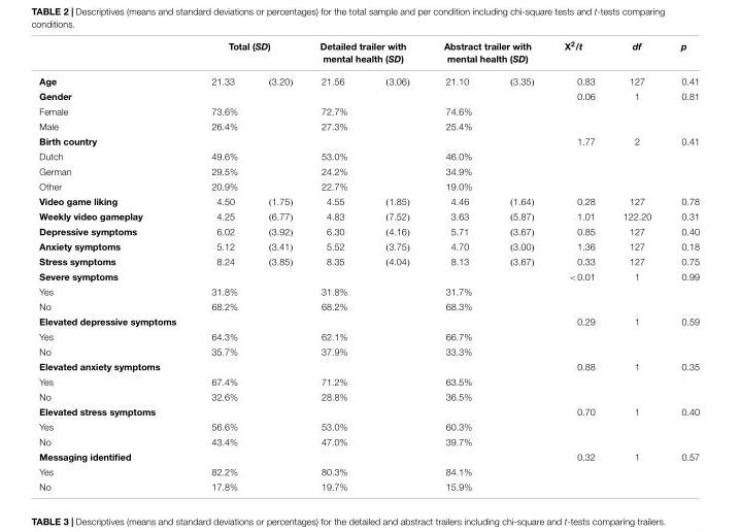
<table><thead><tr><td rowspan="2">Age</td><td colspan="2">Total (SD)</td><td colspan="2">Detailed trailer with mental health (SD)</td><td colspan="2">Abstract trailer with mental health (SD)</td><td rowspan="2">X<sup>2</sup>/t 0.83</td><td rowspan="2">df 127</td><td rowspan="2">p 0.41</td></tr><tr><td>21.33</td><td>(3.20)</td><td>21.56</td><td>(3.06)</td><td>21.10</td><td>(3.35)</td></tr></thead><tbody><tr><td>Gender</td><td></td><td></td><td></td><td></td><td></td><td></td><td>0.06</td><td>1</td><td>0.81</td></tr><tr><td>Female</td><td>73.6%</td><td></td><td>72.7%</td><td></td><td>74.6%</td><td></td><td></td><td></td><td></td></tr><tr><td>Male</td><td>26.4%</td><td></td><td>27.3%</td><td></td><td>25.4%</td><td></td><td></td><td></td><td></td></tr><tr><td>Birth country</td><td></td><td></td><td></td><td></td><td></td><td></td><td>1.77</td><td>2</td><td>0.41</td></tr><tr><td>Dutch</td><td>49.6%</td><td></td><td>53.0%</td><td></td><td>46.0%</td><td></td><td></td><td></td><td></td></tr><tr><td>German</td><td>29.5%</td><td></td><td>24.2%</td><td></td><td>34.9%</td><td></td><td></td><td></td><td></td></tr><tr><td>Other</td><td>20.9%</td><td></td><td>22.7%</td><td></td><td>19.0%</td><td></td><td></td><td></td><td></td></tr><tr><td>Video game liking</td><td>4.50</td><td>(1.75)</td><td>4.55</td><td>(1.85)</td><td>4.46</td><td>(1.64)</td><td>0.28</td><td>127</td><td>0.78</td></tr><tr><td>Weekly video gameplay</td><td>4.25</td><td>(6.77)</td><td>4.83</td><td>(7.52)</td><td>3.63</td><td>(5.87)</td><td>1.01</td><td>122.20</td><td>0.31</td></tr><tr><td>Depressive symptoms</td><td>6.02</td><td>(3.92)</td><td>6.30</td><td>(4.16)</td><td>5.71</td><td>(3.67)</td><td>0.85</td><td>127</td><td>0.40</td></tr><tr><td>Anxiety symptoms</td><td>5.12</td><td>(3.41)</td><td>5.52</td><td>(3.75)</td><td>4.70</td><td>(3.00)</td><td>1.36</td><td>127</td><td>0.18</td></tr><tr><td>Stress symptoms</td><td>8.24</td><td>(3.85)</td><td>8.35</td><td>(4.04)</td><td>8.13</td><td>(3.67)</td><td>0.33</td><td>127</td><td>0.75</td></tr><tr><td>Severe symptoms</td><td></td><td></td><td></td><td></td><td></td><td></td><td>&lt;0.01</td><td>1</td><td>0.99</td></tr><tr><td>Yes</td><td>31.8%</td><td></td><td>31.8%</td><td></td><td>31.7%</td><td></td><td></td><td></td><td></td></tr><tr><td>No</td><td>68.2%</td><td></td><td>68.2%</td><td></td><td>68.3%</td><td></td><td></td><td></td><td></td></tr><tr><td>Elevated depressive symptoms</td><td></td><td></td><td></td><td></td><td></td><td></td><td>0.29</td><td>1</td><td>0.59</td></tr><tr><td>Yes</td><td>64.3%</td><td></td><td>62.1%</td><td></td><td>66.7%</td><td></td><td></td><td></td><td></td></tr><tr><td>No</td><td>35.7%</td><td></td><td>37.9%</td><td></td><td>33.3%</td><td></td><td></td><td></td><td></td></tr><tr><td>Elevated anxiety symptoms</td><td></td><td></td><td></td><td></td><td></td><td></td><td>0.88</td><td>1</td><td>0.35</td></tr><tr><td>Yes</td><td>67.4%</td><td></td><td>71.2%</td><td></td><td>63.5%</td><td></td><td></td><td></td><td></td></tr><tr><td>No</td><td>32.6%</td><td></td><td>28.8%</td><td></td><td>36.5%</td><td></td><td></td><td></td><td></td></tr><tr><td>Elevated stress symptoms</td><td></td><td></td><td></td><td></td><td></td><td></td><td>0.70</td><td>1</td><td>0.40</td></tr><tr><td>Yes</td><td>56.6%</td><td></td><td>53.0%</td><td></td><td>60.3%</td><td></td><td></td><td></td><td></td></tr><tr><td>No</td><td>43.4%</td><td></td><td>47.0%</td><td></td><td>39.7%</td><td></td><td></td><td></td><td></td></tr><tr><td>Messaging identified</td><td></td><td></td><td></td><td></td><td></td><td></td><td>0.32</td><td>1</td><td>0.57</td></tr><tr><td>Yes</td><td>82.2%</td><td></td><td>80.3%</td><td></td><td>84.1%</td><td></td><td></td><td></td><td></td></tr><tr><td>No</td><td>17.8%</td><td></td><td>19.7%</td><td></td><td>15.9%</td><td></td><td></td><td></td><td></td></tr></tbody></table>